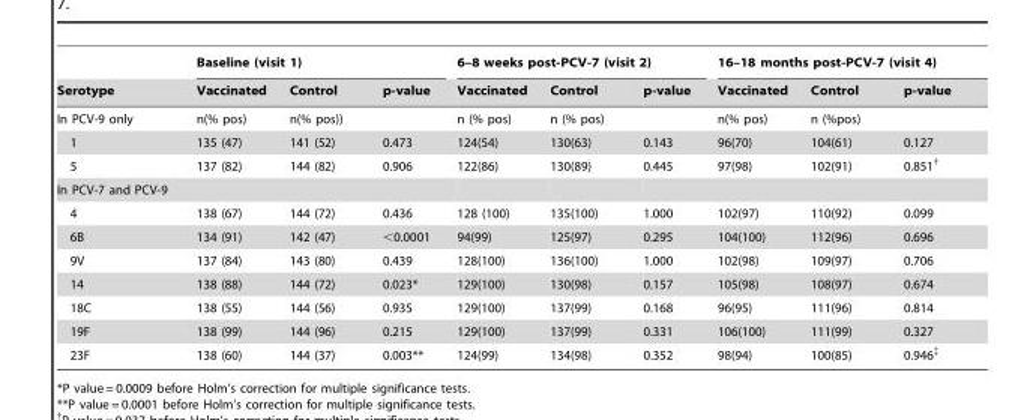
<table><thead><tr><td rowspan="2">Serotype</td><td colspan="3">Baseline (visit 1)</td><td colspan="3">6–8 weeks post-PCV-7 (visit 2)</td><td colspan="3">16–18 months post-PCV-7 (visit 4)</td></tr><tr><td>Vaccinated</td><td>Control</td><td>p-value</td><td>Vaccinated</td><td>Control</td><td>p-value</td><td>Vaccinated</td><td>Control</td><td>p-value</td></tr></thead><tbody><tr><td>In PCV-9 only</td><td>n(% pos)</td><td>n(% pos))</td><td></td><td>n (% pos)</td><td>n (% pos)</td><td></td><td>n(% pos)</td><td>n (%pos)</td><td></td></tr><tr><td>1</td><td>135 (47)</td><td>141 (52)</td><td>0.473</td><td>124(54)</td><td>130(63)</td><td>0.143</td><td>96(70)</td><td>104(61)</td><td>0.127</td></tr><tr><td>5</td><td>137 (82)</td><td>144 (82)</td><td>0.906</td><td>122(86)</td><td>130(89)</td><td>0.445</td><td>97(98)</td><td>102(91)</td><td>0.851†</td></tr><tr><td colspan="10">In PCV-7 and PCV-9</td></tr><tr><td>4</td><td>138 (67)</td><td>144 (72)</td><td>0.436</td><td>128 (100)</td><td>135(100)</td><td>1.000</td><td>102(97)</td><td>110(92)</td><td>0.099</td></tr><tr><td>6B</td><td>134 (91)</td><td>142 (47)</td><td>&lt;0.0001</td><td>94(99)</td><td>125(97)</td><td>0.295</td><td>104(100)</td><td>112(96)</td><td>0.696</td></tr><tr><td>9V</td><td>137 (84)</td><td>143 (80)</td><td>0.439</td><td>128(100)</td><td>136(100)</td><td>1.000</td><td>102(98)</td><td>109(97)</td><td>0.706</td></tr><tr><td>14</td><td>138 (88)</td><td>144 (72)</td><td>0.023*</td><td>129(100)</td><td>130(98)</td><td>0.157</td><td>105(98)</td><td>108(97)</td><td>0.674</td></tr><tr><td>18C</td><td>138 (55)</td><td>144 (56)</td><td>0.935</td><td>129(100)</td><td>137(99)</td><td>0.168</td><td>96(95)</td><td>111(96)</td><td>0.814</td></tr><tr><td>19F</td><td>138 (99)</td><td>144 (96)</td><td>0.215</td><td>129(100)</td><td>137(99)</td><td>0.331</td><td>106(100)</td><td>111(99)</td><td>0.327</td></tr><tr><td>23F</td><td>138 (60)</td><td>144 (37)</td><td>0.003**</td><td>124(99)</td><td>134(98)</td><td>0.352</td><td>98(94)</td><td>100(85)</td><td>0.946‡</td></tr></tbody></table>